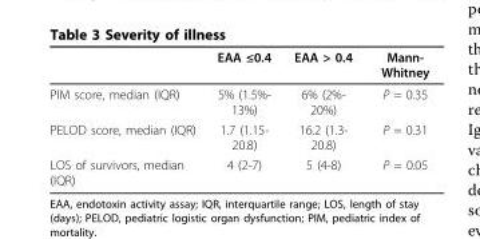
<table><thead><tr><td></td><td>EAA ≤0.4</td><td>EAA &gt; 0.4</td><td>Mann- Whitney</td></tr></thead><tbody><tr><td>PIM score, median (IQR)</td><td>5% (1.5%- 13%)</td><td>6% (2%- 20%)</td><td>P = 0.35</td></tr><tr><td>PELOD score, median (IQR)</td><td>1.7 (1.15- 20.8)</td><td>16.2 (1.3- 20.8)</td><td>P = 0.31</td></tr><tr><td>LOS of survivors, median (IQR)</td><td>4 (2-7)</td><td>5 (4-8)</td><td>P = 0.05</td></tr></tbody></table>